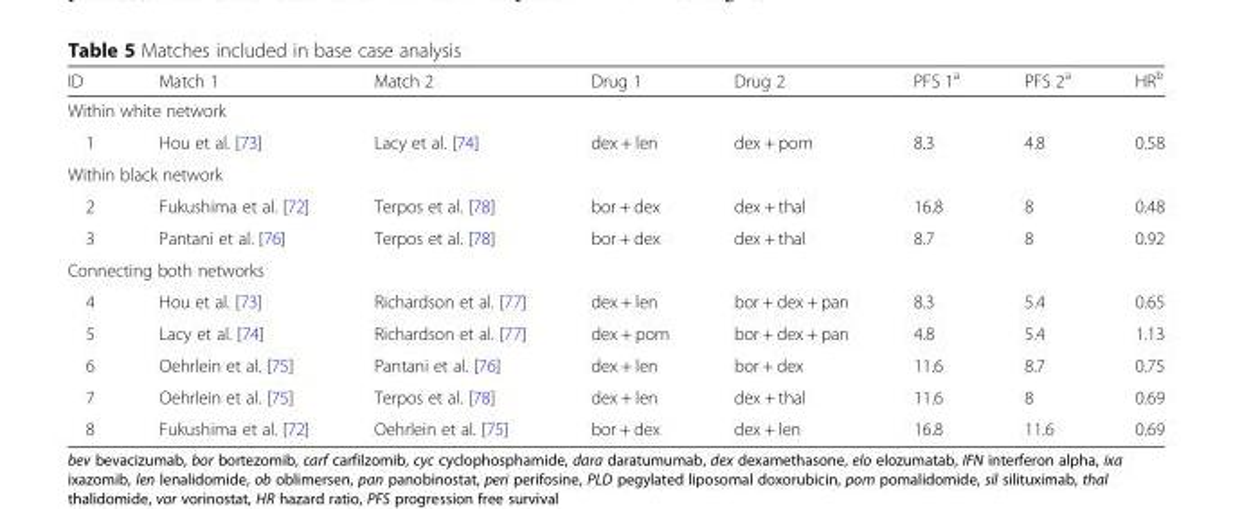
<table><thead><tr><td>ID</td><td>Match 1</td><td>Match 2</td><td>Drug 1</td><td>Drug 2</td><td>PFS 1<sup>a</sup></td><td>PFS 2<sup>a</sup></td><td>HR<sup>b</sup></td></tr></thead><tbody><tr><td colspan="8">Within white network</td></tr><tr><td>1</td><td>Hou et al. [73]</td><td>Lacy et al. [74]</td><td>dex + len</td><td>dex + pom</td><td>8.3</td><td>4.8</td><td>0.58</td></tr><tr><td colspan="8">Within black network</td></tr><tr><td>2</td><td>Fukushima et al. [72]</td><td>Terpos et al. [78]</td><td>bor + dex</td><td>dex + thal</td><td>16.8</td><td>8</td><td>0.48</td></tr><tr><td>3</td><td>Pantani et al. [76]</td><td>Terpos et al. [78]</td><td>bor + dex</td><td>dex + thal</td><td>8.7</td><td>8</td><td>0.92</td></tr><tr><td colspan="8">Connecting both networks</td></tr><tr><td>4</td><td>Hou et al. [73]</td><td>Richardson et al. [77]</td><td>dex + len</td><td>bor + dex + pan</td><td>8.3</td><td>5.4</td><td>0.65</td></tr><tr><td>5</td><td>Lacy et al. [74]</td><td>Richardson et al. [77]</td><td>dex + pom</td><td>bor + dex + pan</td><td>4.8</td><td>5.4</td><td>1.13</td></tr><tr><td>6</td><td>Oehrlein et al. [75]</td><td>Pantani et al. [76]</td><td>dex + len</td><td>bor + dex</td><td>11.6</td><td>8.7</td><td>0.75</td></tr><tr><td>7</td><td>Oehrlein et al. [75]</td><td>Terpos et al. [78]</td><td>dex + len</td><td>dex + thal</td><td>11.6</td><td>8</td><td>0.69</td></tr><tr><td>8</td><td>Fukushima et al. [72]</td><td>Oehrlein et al. [75]</td><td>bor + dex</td><td>dex + len</td><td>16.8</td><td>11.6</td><td>0.69</td></tr></tbody></table>